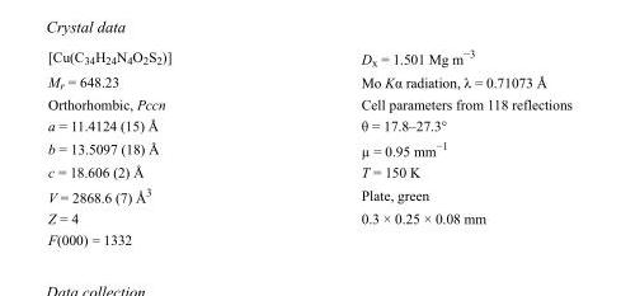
<table><tbody><tr><td>[Cu(C<sub>34</sub>H<sub>24</sub>N<sub>4</sub>O<sub>2</sub>S<sub>2</sub>)]</td><td>D<sub>x</sub> = 1.501 Mg m<sup>−3</sup></td></tr><tr><td>M<sub>r</sub> = 648.23</td><td>Mo Kα radiation, λ = 0.71073 Å</td></tr><tr><td>Orthorhombic, Pccn</td><td>Cell parameters from 118 reflections</td></tr><tr><td>a = 11.4124 (15) Å</td><td>θ = 17.8–27.3°</td></tr><tr><td>b = 13.5097 (18) Å</td><td>µ = 0.95 mm<sup>−1</sup></td></tr><tr><td>c = 18.606 (2) Å</td><td>T = 150 K</td></tr><tr><td>V = 2868.6 (7) Å<sup>3</sup></td><td>Plate, green</td></tr><tr><td>Z = 4</td><td>0.3 × 0.25 × 0.08 mm</td></tr><tr><td>F(000) = 1332</td><td></td></tr></tbody></table>